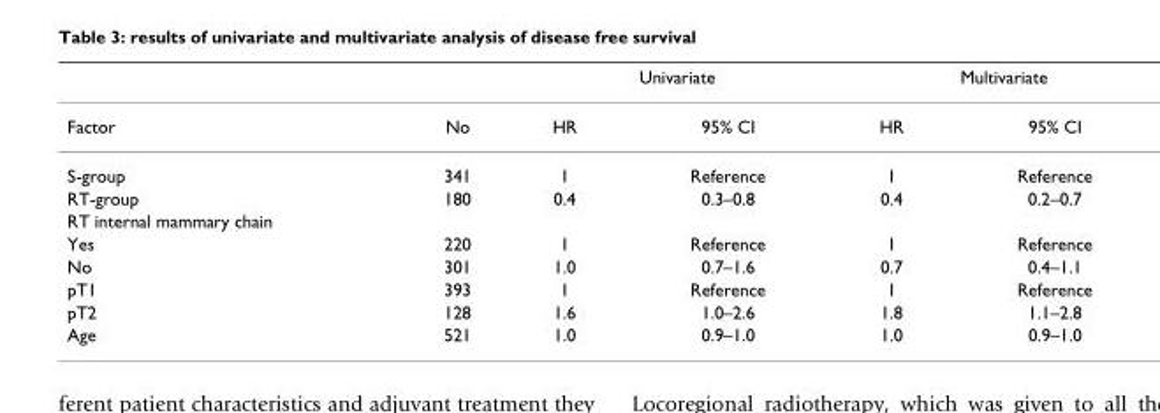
<table><thead><tr><td rowspan="2">Factor</td><td rowspan="2">No</td><td colspan="2">Univariate</td><td colspan="2">Multivariate</td></tr><tr><td>HR</td><td>95% CI</td><td>HR</td><td>95% CI</td></tr></thead><tbody><tr><td>S-group</td><td>341</td><td>1</td><td>Reference</td><td>1</td><td>Reference</td></tr><tr><td>RT-group</td><td>180</td><td>0.4</td><td>0.3–0.8</td><td>0.4</td><td>0.2–0.7</td></tr><tr><td colspan="6">RT internal mammary chain</td></tr><tr><td>Yes</td><td>220</td><td>1</td><td>Reference</td><td>1</td><td>Reference</td></tr><tr><td>No</td><td>301</td><td>1.0</td><td>0.7–1.6</td><td>0.7</td><td>0.4–1.1</td></tr><tr><td>pT1</td><td>393</td><td>1</td><td>Reference</td><td>1</td><td>Reference</td></tr><tr><td>pT2</td><td>128</td><td>1.6</td><td>1.0–2.6</td><td>1.8</td><td>1.1–2.8</td></tr><tr><td>Age</td><td>521</td><td>1.0</td><td>0.9–1.0</td><td>1.0</td><td>0.9–1.0</td></tr></tbody></table>